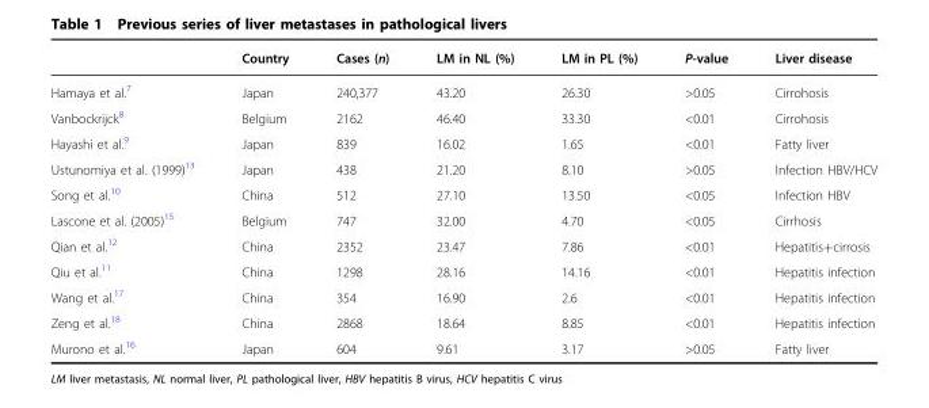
<table><thead><tr><td></td><td>Country</td><td>Cases (n)</td><td>LM in NL (%)</td><td>LM in PL (%)</td><td>P-value</td><td>Liver disease</td></tr></thead><tbody><tr><td>Hamaya et al.<sup>7</sup></td><td>Japan</td><td>240,377</td><td>43.20</td><td>26.30</td><td>&gt;0.05</td><td>Cirrohosis</td></tr><tr><td>Vanbockrijck<sup>8</sup></td><td>Belgium</td><td>2162</td><td>46.40</td><td>33.30</td><td>&lt;0.01</td><td>Cirrohosis</td></tr><tr><td>Hayashi et al.<sup>9</sup></td><td>Japan</td><td>839</td><td>16.02</td><td>1.65</td><td>&lt;0.01</td><td>Fatty liver</td></tr><tr><td>Ustunomiya et al. (1999)<sup>13</sup></td><td>Japan</td><td>438</td><td>21.20</td><td>8.10</td><td>&gt;0.05</td><td>Infection HBV/HCV</td></tr><tr><td>Song et al.<sup>10</sup></td><td>China</td><td>512</td><td>27.10</td><td>13.50</td><td>&lt;0.05</td><td>Infection HBV</td></tr><tr><td>Lascone et al. (2005)<sup>15</sup></td><td>Belgium</td><td>747</td><td>32.00</td><td>4.70</td><td>&lt;0.05</td><td>Cirrhosis</td></tr><tr><td>Qian et al.<sup>12</sup></td><td>China</td><td>2352</td><td>23.47</td><td>7.86</td><td>&lt;0.01</td><td>Hepatitis+cirrosis</td></tr><tr><td>Qiu et al.<sup>11</sup></td><td>China</td><td>1298</td><td>28.16</td><td>14.16</td><td>&lt;0.01</td><td>Hepatitis infection</td></tr><tr><td>Wang et al.<sup>17</sup></td><td>China</td><td>354</td><td>16.90</td><td>2.6</td><td>&lt;0.01</td><td>Hepatitis infection</td></tr><tr><td>Zeng et al.<sup>18</sup></td><td>China</td><td>2868</td><td>18.64</td><td>8.85</td><td>&lt;0.01</td><td>Hepatitis infection</td></tr><tr><td>Murono et al.<sup>16</sup></td><td>Japan</td><td>604</td><td>9.61</td><td>3.17</td><td>&gt;0.05</td><td>Fatty liver</td></tr></tbody></table>